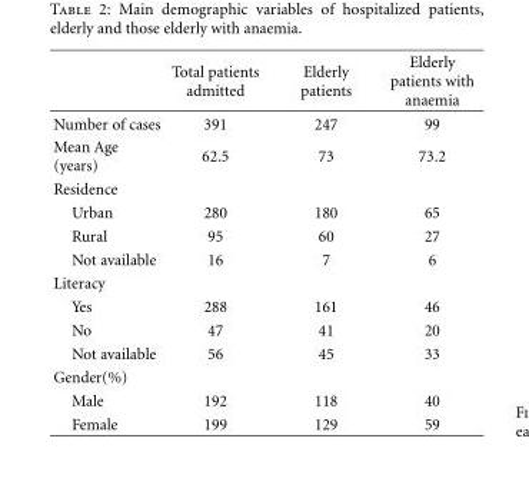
<table><thead><tr><td></td><td>Total patients admitted</td><td>Elderly patients</td><td>Elderly patients with anaemia</td></tr></thead><tbody><tr><td>Number of cases</td><td>391</td><td>247</td><td>99</td></tr><tr><td>Mean Age (years)</td><td>62.5</td><td>73</td><td>73.2</td></tr><tr><td colspan="4">Residence</td></tr><tr><td>Urban</td><td>280</td><td>180</td><td>65</td></tr><tr><td>Rural</td><td>95</td><td>60</td><td>27</td></tr><tr><td>Not available</td><td>16</td><td>7</td><td>6</td></tr><tr><td colspan="4">Literacy</td></tr><tr><td>Yes</td><td>288</td><td>161</td><td>46</td></tr><tr><td>No</td><td>47</td><td>41</td><td>20</td></tr><tr><td>Not available</td><td>56</td><td>45</td><td>33</td></tr><tr><td colspan="4">Gender(%)</td></tr><tr><td>Male</td><td>192</td><td>118</td><td>40</td></tr><tr><td>Female</td><td>199</td><td>129</td><td>59</td></tr></tbody></table>